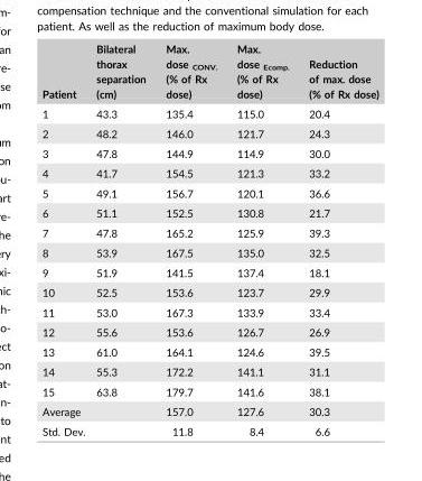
<table><thead><tr><td>Patient</td><td>Bilateral thorax separation (cm)</td><td>Max. dose <sub>CONV.</sub> (% of Rx dose)</td><td>Max. dose <sub>Ecomp.</sub> (% of Rx dose)</td><td>Reduction of max. dose (% of Rx dose)</td></tr></thead><tbody><tr><td>1</td><td>43.3</td><td>135.4</td><td>115.0</td><td>20.4</td></tr><tr><td>2</td><td>48.2</td><td>146.0</td><td>121.7</td><td>24.3</td></tr><tr><td>3</td><td>47.8</td><td>144.9</td><td>114.9</td><td>30.0</td></tr><tr><td>4</td><td>41.7</td><td>154.5</td><td>121.3</td><td>33.2</td></tr><tr><td>5</td><td>49.1</td><td>156.7</td><td>120.1</td><td>36.6</td></tr><tr><td>6</td><td>51.1</td><td>152.5</td><td>130.8</td><td>21.7</td></tr><tr><td>7</td><td>47.8</td><td>165.2</td><td>125.9</td><td>39.3</td></tr><tr><td>8</td><td>53.9</td><td>167.5</td><td>135.0</td><td>32.5</td></tr><tr><td>9</td><td>51.9</td><td>141.5</td><td>137.4</td><td>18.1</td></tr><tr><td>10</td><td>52.5</td><td>153.6</td><td>123.7</td><td>29.9</td></tr><tr><td>11</td><td>53.0</td><td>167.3</td><td>133.9</td><td>33.4</td></tr><tr><td>12</td><td>55.6</td><td>153.6</td><td>126.7</td><td>26.9</td></tr><tr><td>13</td><td>61.0</td><td>164.1</td><td>124.6</td><td>39.5</td></tr><tr><td>14</td><td>55.3</td><td>172.2</td><td>141.1</td><td>31.1</td></tr><tr><td>15</td><td>63.8</td><td>179.7</td><td>141.6</td><td>38.1</td></tr><tr><td colspan="2">Average</td><td>157.0</td><td>127.6</td><td>30.3</td></tr><tr><td colspan="2">Std. Dev.</td><td>11.8</td><td>8.4</td><td>6.6</td></tr></tbody></table>